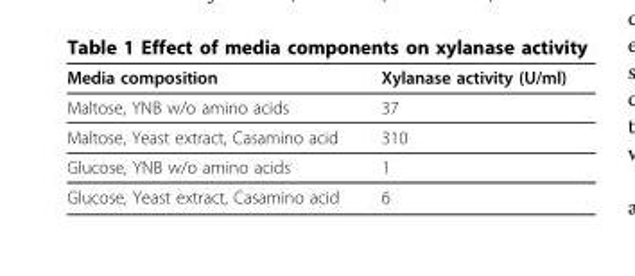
<table><thead><tr><td>Media composition</td><td>Xylanase activity (U/ml)</td></tr></thead><tbody><tr><td>Maltose, YNB w/o amino acids</td><td>37</td></tr><tr><td>Maltose, Yeast extract, Casamino acid</td><td>310</td></tr><tr><td>Glucose, YNB w/o amino acids</td><td>1</td></tr><tr><td>Glucose, Yeast extract, Casamino acid</td><td>6</td></tr></tbody></table>